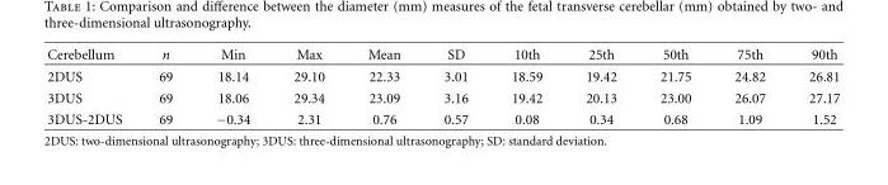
<table><thead><tr><td>Cerebellum</td><td>n</td><td>Min</td><td>Max</td><td>Mean</td><td>SD</td><td>10th</td><td>25th</td><td>50th</td><td>75th</td><td>90th</td></tr></thead><tbody><tr><td>2DUS</td><td>69</td><td>18.14</td><td>29.10</td><td>22.33</td><td>3.01</td><td>18.59</td><td>19.42</td><td>21.75</td><td>24.82</td><td>26.81</td></tr><tr><td>3DUS</td><td>69</td><td>18.06</td><td>29.34</td><td>23.09</td><td>3.16</td><td>19.42</td><td>20.13</td><td>23.00</td><td>26.07</td><td>27.17</td></tr><tr><td>3DUS-2DUS</td><td>69</td><td>−0.34</td><td>2.31</td><td>0.76</td><td>0.57</td><td>0.08</td><td>0.34</td><td>0.68</td><td>1.09</td><td>1.52</td></tr></tbody></table>